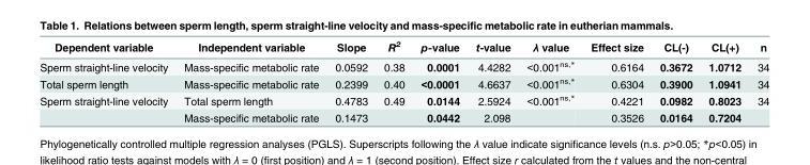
<table><thead><tr><td>Dependent variable</td><td>Independent variable</td><td>Slope</td><td>R<sup>2</sup></td><td>p-value</td><td>t-value</td><td>λ value</td><td>Effect size</td><td>CL(-)</td><td>CL(+)</td><td>n</td></tr></thead><tbody><tr><td>Sperm straight-line velocity</td><td>Mass-specific metabolic rate</td><td>0.0592</td><td>0.38</td><td>0.0001</td><td>4.4282</td><td>&lt;0.001<sup>ns,*</sup></td><td>0.6164</td><td>0.3672</td><td>1.0712</td><td>34</td></tr><tr><td>Total sperm length</td><td>Mass-specific metabolic rate</td><td>0.2399</td><td>0.40</td><td>&lt;0.0001</td><td>4.6637</td><td>&lt;0.001<sup>ns,*</sup></td><td>0.6304</td><td>0.3900</td><td>1.0941</td><td>34</td></tr><tr><td rowspan="2">Sperm straight-line velocity</td><td>Total sperm length</td><td>0.4783</td><td>0.49</td><td>0.0144</td><td>2.5924</td><td>&lt;0.001<sup>ns,*</sup></td><td>0.4221</td><td>0.0982</td><td>0.8023</td><td>34</td></tr><tr><td>Mass-specific metabolic rate</td><td>0.1473</td><td></td><td>0.0442</td><td>2.098</td><td></td><td>0.3526</td><td>0.0164</td><td>0.7204</td><td></td></tr></tbody></table>